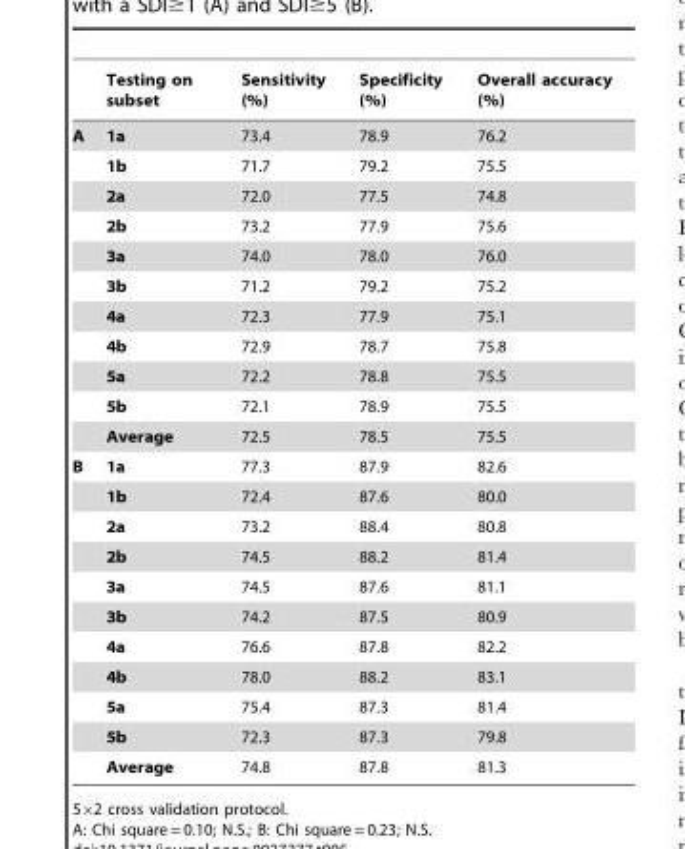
<table><thead><tr><td></td><td>Testing on subset</td><td>Sensitivity (%)</td><td>Specificity (%)</td><td>Overall accuracy (%)</td></tr></thead><tbody><tr><td rowspan="11">A</td><td>1a</td><td>73.4</td><td>78.9</td><td>76.2</td></tr><tr><td>1b</td><td>71.7</td><td>79.2</td><td>75.5</td></tr><tr><td>2a</td><td>72.0</td><td>77.5</td><td>74.8</td></tr><tr><td>2b</td><td>73.2</td><td>77.9</td><td>75.6</td></tr><tr><td>3a</td><td>74.0</td><td>78.0</td><td>76.0</td></tr><tr><td>3b</td><td>71.2</td><td>79.2</td><td>75.2</td></tr><tr><td>4a</td><td>72.3</td><td>77.9</td><td>75.1</td></tr><tr><td>4b</td><td>72.9</td><td>78.7</td><td>75.8</td></tr><tr><td>5a</td><td>72.2</td><td>78.8</td><td>75.5</td></tr><tr><td>5b</td><td>72.1</td><td>78.9</td><td>75.5</td></tr><tr><td>Average</td><td>72.5</td><td>78.5</td><td>75.5</td></tr><tr><td rowspan="11">B</td><td>1a</td><td>77.3</td><td>87.9</td><td>82.6</td></tr><tr><td>1b</td><td>72.4</td><td>87.6</td><td>80.0</td></tr><tr><td>2a</td><td>73.2</td><td>88.4</td><td>80.8</td></tr><tr><td>2b</td><td>74.5</td><td>88.2</td><td>81.4</td></tr><tr><td>3a</td><td>74.5</td><td>87.6</td><td>81.1</td></tr><tr><td>3b</td><td>74.2</td><td>87.5</td><td>80.9</td></tr><tr><td>4a</td><td>76.6</td><td>87.8</td><td>82.2</td></tr><tr><td>4b</td><td>78.0</td><td>88.2</td><td>83.1</td></tr><tr><td>5a</td><td>75.4</td><td>87.3</td><td>81.4</td></tr><tr><td>5b</td><td>72.3</td><td>87.3</td><td>79.8</td></tr><tr><td>Average</td><td>74.8</td><td>87.8</td><td>81.3</td></tr></tbody></table>